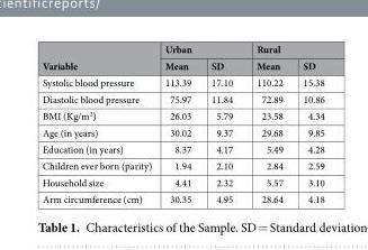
<table><thead><tr><td rowspan="2">Variable</td><td colspan="2">Urban</td><td colspan="2">Rural</td></tr><tr><td>Mean</td><td>SD</td><td>Mean</td><td>SD</td></tr></thead><tbody><tr><td>Systolic blood pressure</td><td>113.39</td><td>17.10</td><td>110.22</td><td>15.38</td></tr><tr><td>Diastolic blood pressure</td><td>75.97</td><td>11.84</td><td>72.89</td><td>10.86</td></tr><tr><td>BMI (Kg/m<sup>2</sup>)</td><td>26.03</td><td>5.79</td><td>23.58</td><td>4.34</td></tr><tr><td>Age (in years)</td><td>30.02</td><td>9.37</td><td>29.68</td><td>9.85</td></tr><tr><td>Education (in years)</td><td>8.37</td><td>4.17</td><td>5.49</td><td>4.28</td></tr><tr><td>Children ever born (parity)</td><td>1.94</td><td>2.10</td><td>2.84</td><td>2.59</td></tr><tr><td>Household size</td><td>4.41</td><td>2.32</td><td>5.57</td><td>3.10</td></tr><tr><td>Arm circumference (cm)</td><td>30.35</td><td>4.95</td><td>28.64</td><td>4.18</td></tr></tbody></table>